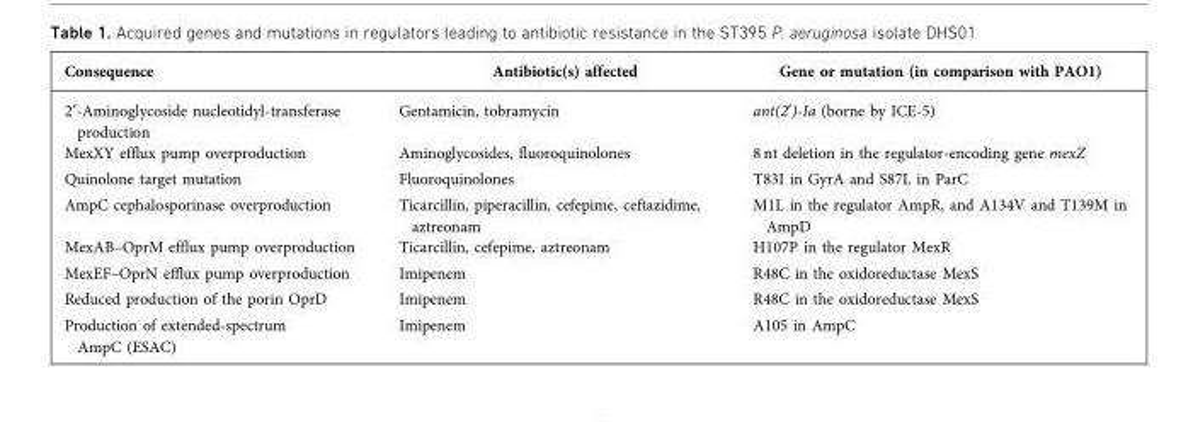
<table><thead><tr><td>Consequence</td><td>Antibiotic(s) affected</td><td>Gene or mutation (in comparison with PAO1)</td></tr></thead><tbody><tr><td>2¢-Aminoglycoside nucleotidyl-transferase production</td><td>Gentamicin, tobramycin</td><td>ant(2¢)-Ia (borne by ICE-5)</td></tr><tr><td>MexXY efflux pump overproduction</td><td>Aminoglycosides, fluoroquinolones</td><td>8 nt deletion in the regulator-encoding gene mexZ</td></tr><tr><td>Quinolone target mutation</td><td>Fluoroquinolones</td><td>T83I in GyrA and S87L in ParC</td></tr><tr><td>AmpC cephalosporinase overproduction</td><td>Ticarcillin, piperacillin, cefepime, ceftazidime, aztreonam</td><td>M1L in the regulator AmpR, and A134V and T139M in AmpD</td></tr><tr><td>MexAB–OprM efflux pump overproduction</td><td>Ticarcillin, cefepime, aztreonam</td><td>H107P in the regulator MexR</td></tr><tr><td>MexEF–OprN efflux pump overproduction</td><td>Imipenem</td><td>R48C in the oxidoreductase MexS</td></tr><tr><td>Reduced production of the porin OprD</td><td>Imipenem</td><td>R48C in the oxidoreductase MexS</td></tr><tr><td>Production of extended-spectrum AmpC (ESAC)</td><td>Imipenem</td><td>A105 in AmpC</td></tr></tbody></table>